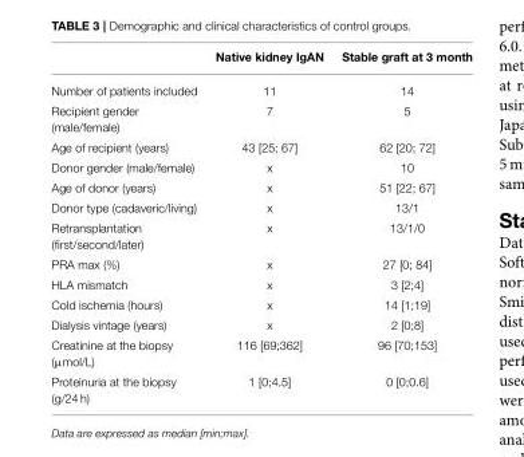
<table><thead><tr><td></td><td>Native kidney IgAN</td><td>Stable graft at 3 month</td></tr></thead><tbody><tr><td>Number of patients included</td><td>11</td><td>14</td></tr><tr><td>Recipient gender (male/female)</td><td>7</td><td>5</td></tr><tr><td>Age of recipient (years)</td><td>43 [25; 67]</td><td>62 [20; 72]</td></tr><tr><td>Donor gender (male/female)</td><td>x</td><td>10</td></tr><tr><td>Age of donor (years)</td><td>x</td><td>51 [22; 67]</td></tr><tr><td>Donor type (cadaveric/living)</td><td>x</td><td>13/1</td></tr><tr><td>Retransplantation (first/second/later)</td><td>x</td><td>13/1/0</td></tr><tr><td>PRA max (%)</td><td>x</td><td>27 [0; 84]</td></tr><tr><td>HLA mismatch</td><td>x</td><td>3 [2;4]</td></tr><tr><td>Cold ischemia (hours)</td><td>x</td><td>14 [1;19]</td></tr><tr><td>Dialysis vintage (years)</td><td>x</td><td>2 [0;8]</td></tr><tr><td>Creatinine at the biopsy (µmol/L)</td><td>116 [69;362]</td><td>96 [70;153]</td></tr><tr><td>Proteinuria at the biopsy (g/24 h)</td><td>1 [0;4.5]</td><td>0 [0;0.6]</td></tr></tbody></table>